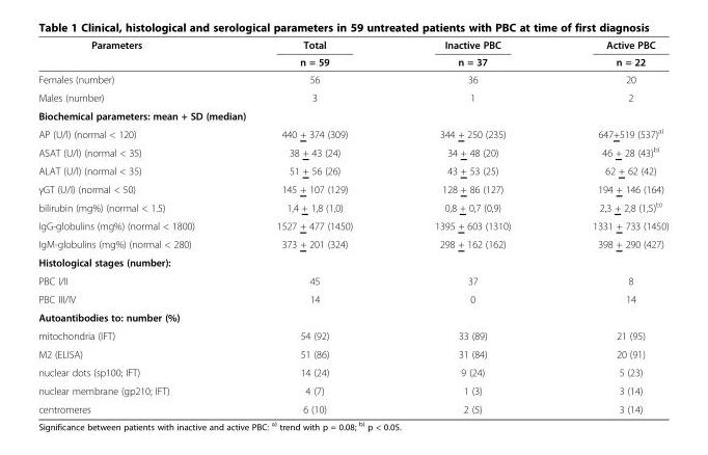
<table><thead><tr><td rowspan="2">Parameters</td><td rowspan="2">Total n = 59</td><td rowspan="2">Inactive PBC n = 37</td><td rowspan="2">Active PBC n = 22</td></tr><tr></tr></thead><tbody><tr><td>Females (number)</td><td>56</td><td>36</td><td>20</td></tr><tr><td>Males (number)</td><td>3</td><td>1</td><td>2</td></tr><tr><td colspan="4">Biochemical parameters: mean + SD (median)</td></tr><tr><td>AP (U/l) (normal &lt; 120)</td><td>440 + 374 (309)</td><td>344 + 250 (235)</td><td>647+519 (537)<sup>a)</sup></td></tr><tr><td>ASAT (U/l) (normal &lt; 35)</td><td>38 + 43 (24)</td><td>34 + 48 (20)</td><td>46 + 28 (43)<sup>b)</sup></td></tr><tr><td>ALAT (U/l) (normal &lt; 35)</td><td>51 + 56 (26)</td><td>43 + 53 (25)</td><td>62 + 62 (42)</td></tr><tr><td>γGT (U/l) (normal &lt; 50)</td><td>145 + 107 (129)</td><td>128 + 86 (127)</td><td>194 + 146 (164)</td></tr><tr><td>bilirubin (mg%) (normal &lt; 1.5)</td><td>1,4 + 1,8 (1,0)</td><td>0,8 + 0,7 (0,9)</td><td>2,3 + 2,8 (1,5)<sup>b)</sup></td></tr><tr><td>IgG-globulins (mg%) (normal &lt; 1800)</td><td>1527 + 477 (1450)</td><td>1395 + 603 (1310)</td><td>1331 + 733 (1450)</td></tr><tr><td>IgM-globulins (mg%) (normal &lt; 280)</td><td>373 + 201 (324)</td><td>298 + 162 (162)</td><td>398 + 290 (427)</td></tr><tr><td colspan="4">Histological stages (number):</td></tr><tr><td>PBC I/II</td><td>45</td><td>37</td><td>8</td></tr><tr><td>PBC III/IV</td><td>14</td><td>0</td><td>14</td></tr><tr><td colspan="4">Autoantibodies to: number (%)</td></tr><tr><td>mitochondria (IFT)</td><td>54 (92)</td><td>33 (89)</td><td>21 (95)</td></tr><tr><td>M2 (ELISA)</td><td>51 (86)</td><td>31 (84)</td><td>20 (91)</td></tr><tr><td>nuclear dots (sp100; IFT)</td><td>14 (24)</td><td>9 (24)</td><td>5 (23)</td></tr><tr><td>nuclear membrane (gp210; IFT)</td><td>4 (7)</td><td>1 (3)</td><td>3 (14)</td></tr><tr><td>centromeres</td><td>6 (10)</td><td>2 (5)</td><td>3 (14)</td></tr></tbody></table>